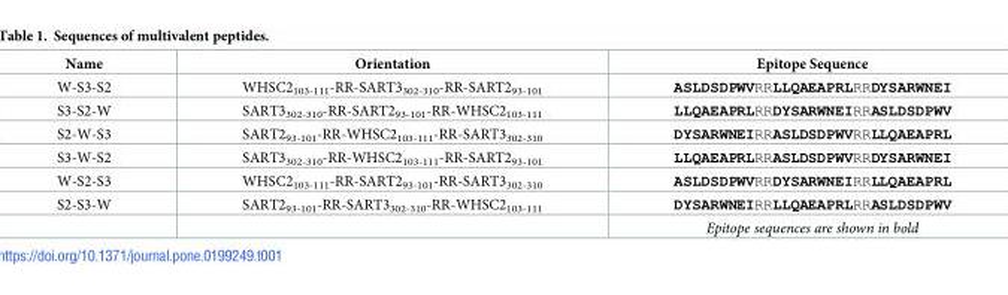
<table><thead><tr><td>Name</td><td>Orientation</td><td>Epitope Sequence</td></tr></thead><tbody><tr><td>W-S3-S2</td><td>WHSC2<sub>103-111</sub>-RR-SART3<sub>302-310</sub>-RR-SART2<sub>93-101</sub></td><td>ASLDSDPWVRRLLQAEAPRLRRDYSARWNEI</td></tr><tr><td>S3-S2-W</td><td>SART3<sub>302-310</sub>-RR-SART2<sub>93-101</sub>-RR-WHSC2<sub>103-111</sub></td><td>LLQAEAPRLRRDYSARWNEIRRASLDSDPWV</td></tr><tr><td>S2-W-S3</td><td>SART2<sub>93-101</sub>-RR-WHSC2<sub>103-111</sub>-RR-SART3<sub>302-310</sub></td><td>DYSARWNEIRRASLDSDPWVRRLLQAEAPRL</td></tr><tr><td>S3-W-S2</td><td>SART3<sub>302-310</sub>-RR-WHSC2<sub>103-111</sub>-RR-SART2<sub>93-101</sub></td><td>LLQAEAPRLRRASLDSDPWVRRDYSARWNEI</td></tr><tr><td>W-S2-S3</td><td>WHSC2<sub>103-111</sub>-RR-SART2<sub>93-101</sub>-RR-SART3<sub>302-310</sub></td><td>ASLDSDPWVRRDYSARWNEIRRLLQAEAPRL</td></tr><tr><td rowspan="2">S2-S3-W</td><td>SART2<sub>93-101</sub>-RR-SART3<sub>302-310</sub>-RR-WHSC2<sub>103-111</sub></td><td>DYSARWNEIRRLLQAEAPRLRRASLDSDPWV</td></tr><tr><td></td><td>Epitope sequences are shown in bold</td></tr></tbody></table>